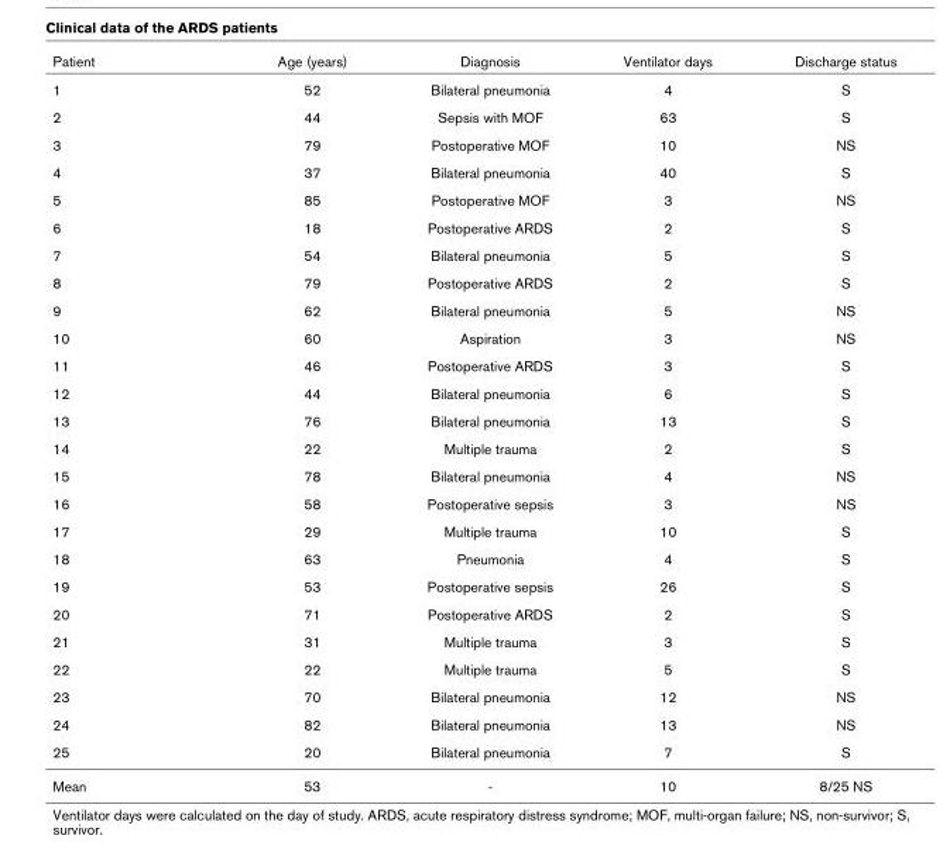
<table><thead><tr><td>Patient</td><td>Age (years)</td><td>Diagnosis</td><td>Ventilator days</td><td>Discharge status</td></tr></thead><tbody><tr><td>1</td><td>52</td><td>Bilateral pneumonia</td><td>4</td><td>S</td></tr><tr><td>2</td><td>44</td><td>Sepsis with MOF</td><td>63</td><td>S</td></tr><tr><td>3</td><td>79</td><td>Postoperative MOF</td><td>10</td><td>NS</td></tr><tr><td>4</td><td>37</td><td>Bilateral pneumonia</td><td>40</td><td>S</td></tr><tr><td>5</td><td>85</td><td>Postoperative MOF</td><td>3</td><td>NS</td></tr><tr><td>6</td><td>18</td><td>Postoperative ARDS</td><td>2</td><td>S</td></tr><tr><td>7</td><td>54</td><td>Bilateral pneumonia</td><td>5</td><td>S</td></tr><tr><td>8</td><td>79</td><td>Postoperative ARDS</td><td>2</td><td>S</td></tr><tr><td>9</td><td>62</td><td>Bilateral pneumonia</td><td>5</td><td>NS</td></tr><tr><td>10</td><td>60</td><td>Aspiration</td><td>3</td><td>NS</td></tr><tr><td>11</td><td>46</td><td>Postoperative ARDS</td><td>3</td><td>S</td></tr><tr><td>12</td><td>44</td><td>Bilateral pneumonia</td><td>6</td><td>S</td></tr><tr><td>13</td><td>76</td><td>Bilateral pneumonia</td><td>13</td><td>S</td></tr><tr><td>14</td><td>22</td><td>Multiple trauma</td><td>2</td><td>S</td></tr><tr><td>15</td><td>78</td><td>Bilateral pneumonia</td><td>4</td><td>NS</td></tr><tr><td>16</td><td>58</td><td>Postoperative sepsis</td><td>3</td><td>NS</td></tr><tr><td>17</td><td>29</td><td>Multiple trauma</td><td>10</td><td>S</td></tr><tr><td>18</td><td>63</td><td>Pneumonia</td><td>4</td><td>S</td></tr><tr><td>19</td><td>53</td><td>Postoperative sepsis</td><td>26</td><td>S</td></tr><tr><td>20</td><td>71</td><td>Postoperative ARDS</td><td>2</td><td>S</td></tr><tr><td>21</td><td>31</td><td>Multiple trauma</td><td>3</td><td>S</td></tr><tr><td>22</td><td>22</td><td>Multiple trauma</td><td>5</td><td>S</td></tr><tr><td>23</td><td>70</td><td>Bilateral pneumonia</td><td>12</td><td>NS</td></tr><tr><td>24</td><td>82</td><td>Bilateral pneumonia</td><td>13</td><td>NS</td></tr><tr><td>25</td><td>20</td><td>Bilateral pneumonia</td><td>7</td><td>S</td></tr><tr><td>Mean</td><td>53</td><td>-</td><td>10</td><td>8/25 NS</td></tr></tbody></table>